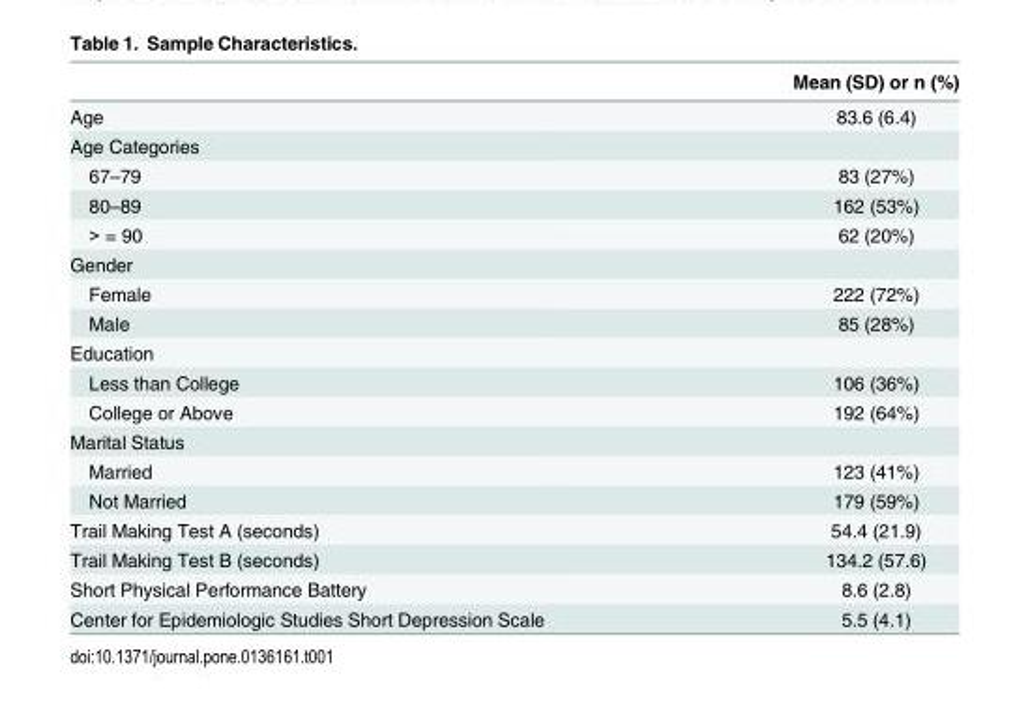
<table><thead><tr><td></td><td>Mean (SD) or n (%)</td></tr></thead><tbody><tr><td>Age</td><td>83.6 (6.4)</td></tr><tr><td colspan="2">Age Categories</td></tr><tr><td>67–79</td><td>83 (27%)</td></tr><tr><td>80–89</td><td>162 (53%)</td></tr><tr><td>&gt; = 90</td><td>62 (20%)</td></tr><tr><td colspan="2">Gender</td></tr><tr><td>Female</td><td>222 (72%)</td></tr><tr><td>Male</td><td>85 (28%)</td></tr><tr><td colspan="2">Education</td></tr><tr><td>Less than College</td><td>106 (36%)</td></tr><tr><td>College or Above</td><td>192 (64%)</td></tr><tr><td colspan="2">Marital Status</td></tr><tr><td>Married</td><td>123 (41%)</td></tr><tr><td>Not Married</td><td>179 (59%)</td></tr><tr><td>Trail Making Test A (seconds)</td><td>54.4 (21.9)</td></tr><tr><td>Trail Making Test B (seconds)</td><td>134.2 (57.6)</td></tr><tr><td>Short Physical Performance Battery</td><td>8.6 (2.8)</td></tr><tr><td>Center for Epidemiologic Studies Short Depression Scale</td><td>5.5 (4.1)</td></tr></tbody></table>